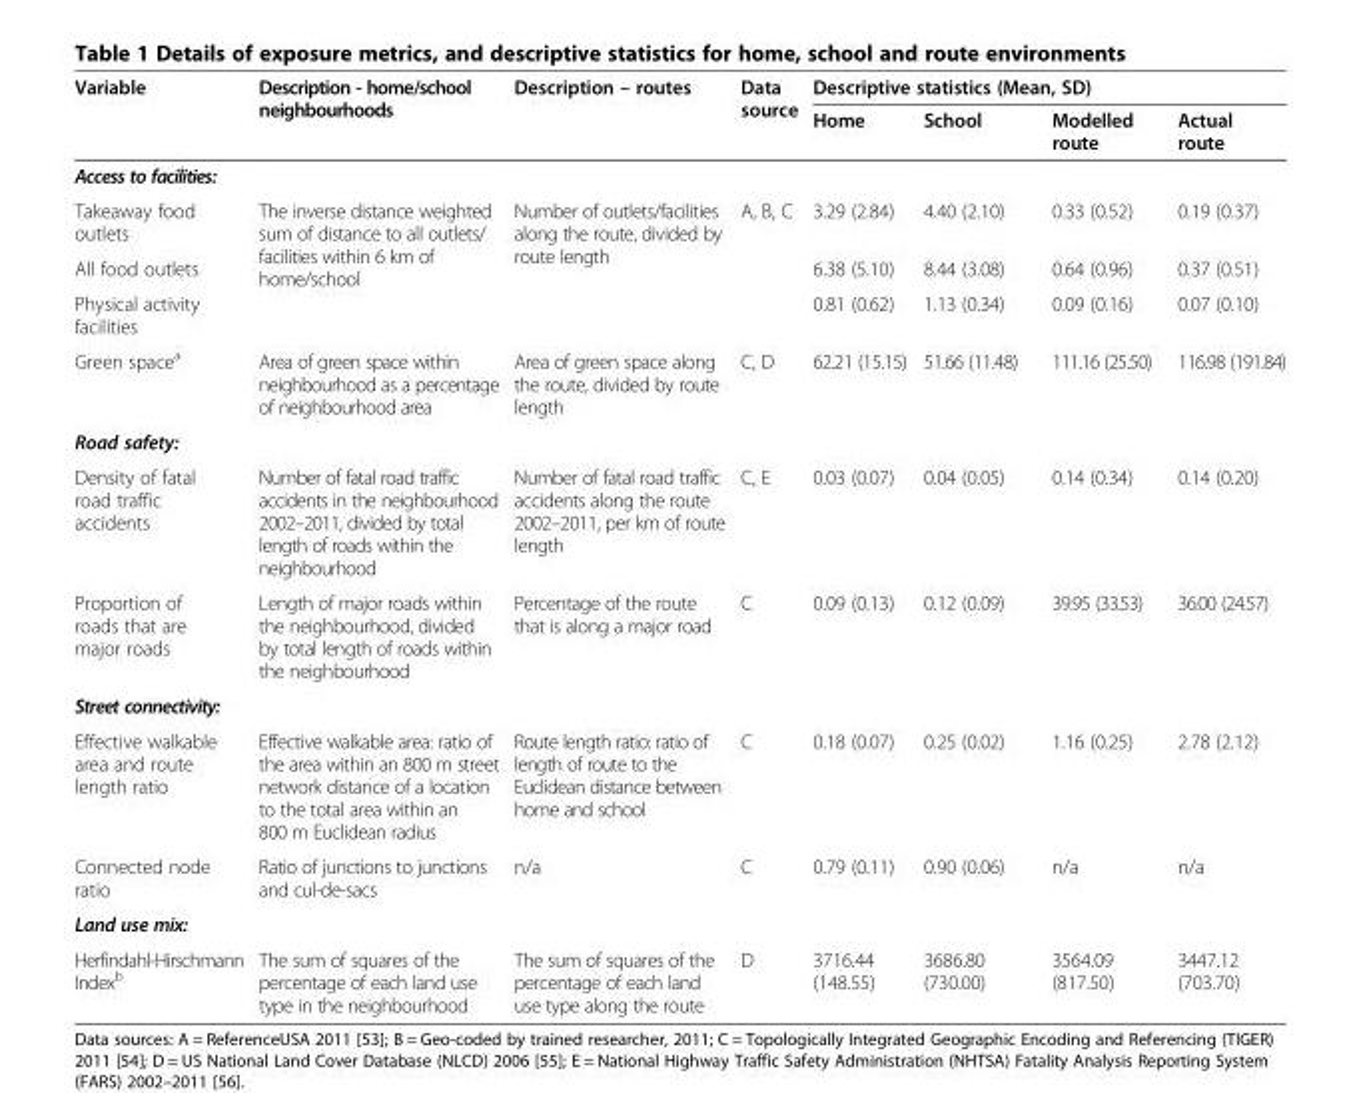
<table><thead><tr><td rowspan="2">Variable</td><td rowspan="2">Description - home/school neighbourhoods</td><td rowspan="2">Description – routes</td><td rowspan="2">Data source</td><td colspan="4">Descriptive statistics (Mean, SD)</td></tr><tr><td>Home</td><td>School</td><td>Modelled route</td><td>Actual route</td></tr></thead><tbody><tr><td colspan="8">Access to facilities:</td></tr><tr><td>Takeaway food outlets</td><td rowspan="3">The inverse distance weighted sum of distance to all outlets/ facilities within 6 km of home/school</td><td rowspan="3">Number of outlets/facilities along the route, divided by route length</td><td>A, B, C</td><td>3.29 (2.84)</td><td>4.40 (2.10)</td><td>0.33 (0.52)</td><td>0.19 (0.37)</td></tr><tr><td>All food outlets</td><td></td><td>6.38 (5.10)</td><td>8.44 (3.08)</td><td>0.64 (0.96)</td><td>0.37 (0.51)</td></tr><tr><td>Physical activity facilities</td><td></td><td>0.81 (0.62)</td><td>1.13 (0.34)</td><td>0.09 (0.16)</td><td>0.07 (0.10)</td></tr><tr><td>Green space<sup>a</sup></td><td>Area of green space within neighbourhood as a percentage of neighbourhood area</td><td>Area of green space along the route, divided by route length</td><td>C, D</td><td>62.21 (15.15)</td><td>51.66 (11.48)</td><td>111.16 (25.50)</td><td>116.98 (191.84)</td></tr><tr><td colspan="8">Road safety:</td></tr><tr><td>Density of fatal road traffic accidents</td><td>Number of fatal road traffic accidents in the neighbourhood 2002–2011, divided by total length of roads within the neighbourhood</td><td>Number of fatal road traffic accidents along the route 2002–2011, per km of route length</td><td>C, E</td><td>0.03 (0.07)</td><td>0.04 (0.05)</td><td>0.14 (0.34)</td><td>0.14 (0.20)</td></tr><tr><td>Proportion of roads that are major roads</td><td>Length of major roads within the neighbourhood, divided by total length of roads within the neighbourhood</td><td>Percentage of the route that is along a major road</td><td>C</td><td>0.09 (0.13)</td><td>0.12 (0.09)</td><td>39.95 (33.53)</td><td>36.00 (24.57)</td></tr><tr><td colspan="8">Street connectivity:</td></tr><tr><td>Effective walkable area and route length ratio</td><td>Effective walkable area: ratio of the area within an 800 m street network distance of a location to the total area within an 800 m Euclidean radius</td><td>Route length ratio: ratio of length of route to the Euclidean distance between home and school</td><td>C</td><td>0.18 (0.07)</td><td>0.25 (0.02)</td><td>1.16 (0.25)</td><td>2.78 (2.12)</td></tr><tr><td>Connected node ratio</td><td>Ratio of junctions to junctions and cul-de-sacs</td><td>n/a</td><td>C</td><td>0.79 (0.11)</td><td>0.90 (0.06)</td><td>n/a</td><td>n/a</td></tr><tr><td colspan="8">Land use mix:</td></tr><tr><td>Herfindahl-Hirschmann Index<sup>b</sup></td><td>The sum of squares of the percentage of each land use type in the neighbourhood</td><td>The sum of squares of the percentage of each land use type along the route</td><td>D</td><td>3716.44 (148.55)</td><td>3686.80 (730.00)</td><td>3564.09 (817.50)</td><td>3447.12 (703.70)</td></tr></tbody></table>